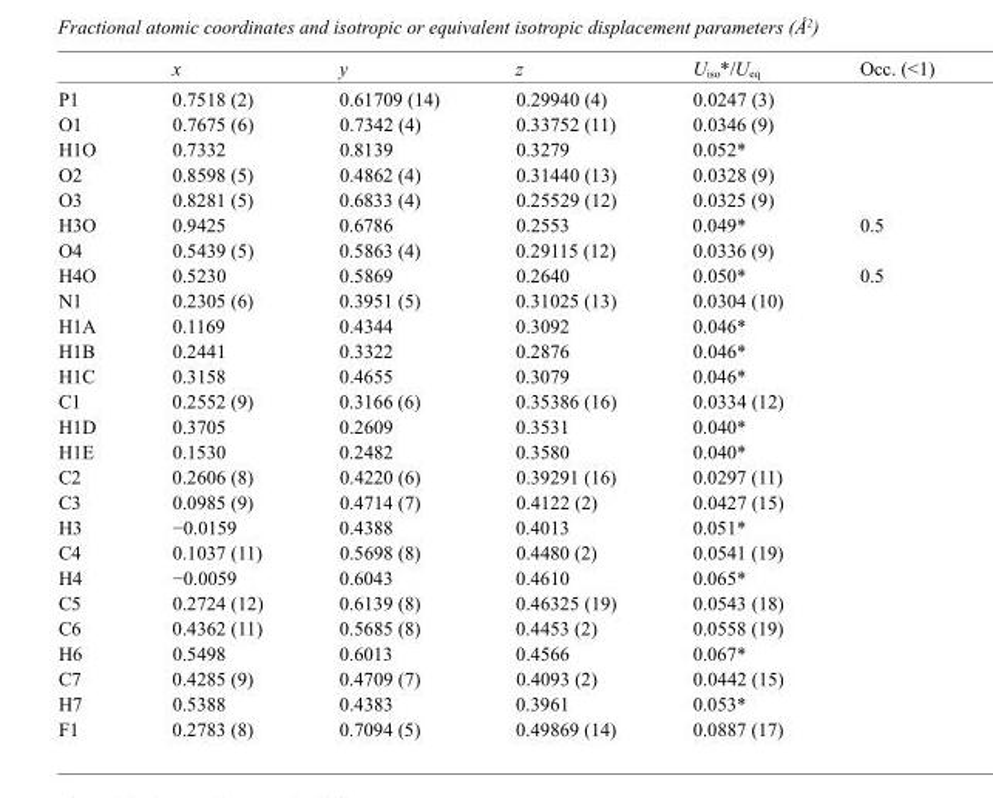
<table><thead><tr><td></td><td>x</td><td>y</td><td>z</td><td>U<sub>iso</sub>*/U<sub>eq</sub></td><td>Occ. (&lt;1)</td></tr></thead><tbody><tr><td>P1</td><td>0.7518 (2)</td><td>0.61709 (14)</td><td>0.29940 (4)</td><td>0.0247 (3)</td><td></td></tr><tr><td>O1</td><td>0.7675 (6)</td><td>0.7342 (4)</td><td>0.33752 (11)</td><td>0.0346 (9)</td><td></td></tr><tr><td>H1O</td><td>0.7332</td><td>0.8139</td><td>0.3279</td><td>0.052*</td><td></td></tr><tr><td>O2</td><td>0.8598 (5)</td><td>0.4862 (4)</td><td>0.31440 (13)</td><td>0.0328 (9)</td><td></td></tr><tr><td>O3</td><td>0.8281 (5)</td><td>0.6833 (4)</td><td>0.25529 (12)</td><td>0.0325 (9)</td><td></td></tr><tr><td>H3O</td><td>0.9425</td><td>0.6786</td><td>0.2553</td><td>0.049*</td><td>0.5</td></tr><tr><td>O4</td><td>0.5439 (5)</td><td>0.5863 (4)</td><td>0.29115 (12)</td><td>0.0336 (9)</td><td></td></tr><tr><td>H4O</td><td>0.5230</td><td>0.5869</td><td>0.2640</td><td>0.050*</td><td>0.5</td></tr><tr><td>N1</td><td>0.2305 (6)</td><td>0.3951 (5)</td><td>0.31025 (13)</td><td>0.0304 (10)</td><td></td></tr><tr><td>H1A</td><td>0.1169</td><td>0.4344</td><td>0.3092</td><td>0.046*</td><td></td></tr><tr><td>H1B</td><td>0.2441</td><td>0.3322</td><td>0.2876</td><td>0.046*</td><td></td></tr><tr><td>H1C</td><td>0.3158</td><td>0.4655</td><td>0.3079</td><td>0.046*</td><td></td></tr><tr><td>C1</td><td>0.2552 (9)</td><td>0.3166 (6)</td><td>0.35386 (16)</td><td>0.0334 (12)</td><td></td></tr><tr><td>H1D</td><td>0.3705</td><td>0.2609</td><td>0.3531</td><td>0.040*</td><td></td></tr><tr><td>H1E</td><td>0.1530</td><td>0.2482</td><td>0.3580</td><td>0.040*</td><td></td></tr><tr><td>C2</td><td>0.2606 (8)</td><td>0.4220 (6)</td><td>0.39291 (16)</td><td>0.0297 (11)</td><td></td></tr><tr><td>C3</td><td>0.0985 (9)</td><td>0.4714 (7)</td><td>0.4122 (2)</td><td>0.0427 (15)</td><td></td></tr><tr><td>H3</td><td>−0.0159</td><td>0.4388</td><td>0.4013</td><td>0.051*</td><td></td></tr><tr><td>C4</td><td>0.1037 (11)</td><td>0.5698 (8)</td><td>0.4480 (2)</td><td>0.0541 (19)</td><td></td></tr><tr><td>H4</td><td>−0.0059</td><td>0.6043</td><td>0.4610</td><td>0.065*</td><td></td></tr><tr><td>C5</td><td>0.2724 (12)</td><td>0.6139 (8)</td><td>0.46325 (19)</td><td>0.0543 (18)</td><td></td></tr><tr><td>C6</td><td>0.4362 (11)</td><td>0.5685 (8)</td><td>0.4453 (2)</td><td>0.0558 (19)</td><td></td></tr><tr><td>H6</td><td>0.5498</td><td>0.6013</td><td>0.4566</td><td>0.067*</td><td></td></tr><tr><td>C7</td><td>0.4285 (9)</td><td>0.4709 (7)</td><td>0.4093 (2)</td><td>0.0442 (15)</td><td></td></tr><tr><td>H7</td><td>0.5388</td><td>0.4383</td><td>0.3961</td><td>0.053*</td><td></td></tr><tr><td>F1</td><td>0.2783 (8)</td><td>0.7094 (5)</td><td>0.49869 (14)</td><td>0.0887 (17)</td><td></td></tr></tbody></table>